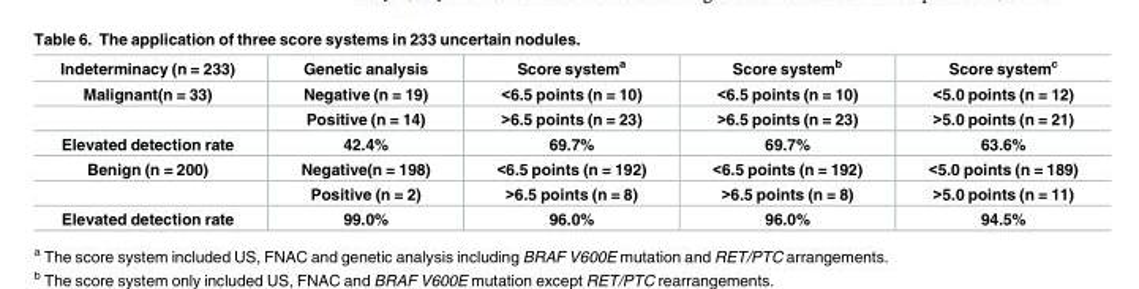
<table><thead><tr><td>Indeterminacy (n = 233)</td><td>Genetic analysis</td><td>Score system<sup>a</sup></td><td>Score system<sup>b</sup></td><td>Score system<sup>c</sup></td></tr></thead><tbody><tr><td rowspan="2">Malignant(n = 33)</td><td>Negative (n = 19)</td><td>&lt;6.5 points (n = 10)</td><td>&lt;6.5 points (n = 10)</td><td>&lt;5.0 points (n = 12)</td></tr><tr><td>Positive (n = 14)</td><td>&gt;6.5 points (n = 23)</td><td>&gt;6.5 points (n = 23)</td><td>&gt;5.0 points (n = 21)</td></tr><tr><td>Elevated detection rate</td><td>42.4%</td><td>69.7%</td><td>69.7%</td><td>63.6%</td></tr><tr><td rowspan="2">Benign (n = 200)</td><td>Negative(n = 198)</td><td>&lt;6.5 points (n = 192)</td><td>&lt;6.5 points (n = 192)</td><td>&lt;5.0 points (n = 189)</td></tr><tr><td>Positive (n = 2)</td><td>&gt;6.5 points (n = 8)</td><td>&gt;6.5 points (n = 8)</td><td>&gt;5.0 points (n = 11)</td></tr><tr><td>Elevated detection rate</td><td>99.0%</td><td>96.0%</td><td>96.0%</td><td>94.5%</td></tr></tbody></table>